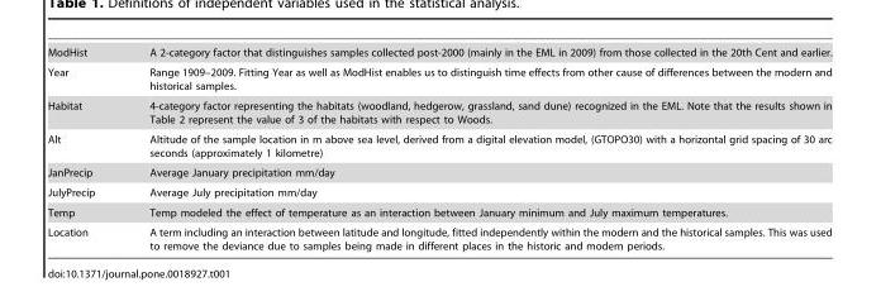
<table><tbody><tr><td>ModHist</td><td>A 2-category factor that distinguishes samples collected post-2000 (mainly in the EML in 2009) from those collected in the 20th Cent and earlier.</td></tr><tr><td>Year</td><td>Range 1909–2009. Fitting Year as well as ModHist enables us to distinguish time effects from other cause of differences between the modern and historical samples.</td></tr><tr><td>Habitat</td><td>4-category factor representing the habitats (woodland, hedgerow, grassland, sand dune) recognized in the EML. Note that the results shown in Table 2 represent the value of 3 of the habitats with respect to Woods.</td></tr><tr><td>Alt</td><td>Altitude of the sample location in m above sea level, derived from a digital elevation model, (GTOPO30) with a horizontal grid spacing of 30 arc seconds (approximately 1 kilometre)</td></tr><tr><td>JanPrecip</td><td>Average January precipitation mm/day</td></tr><tr><td>JulyPrecip</td><td>Average July precipitation mm/day</td></tr><tr><td>Temp</td><td>Temp modeled the effect of temperature as an interaction between January minimum and July maximum temperatures.</td></tr><tr><td>Location</td><td>A term including an interaction between latitude and longitude, fitted independently within the modern and the historical samples. This was used to remove the deviance due to samples being made in different places in the historic and modern periods.</td></tr></tbody></table>